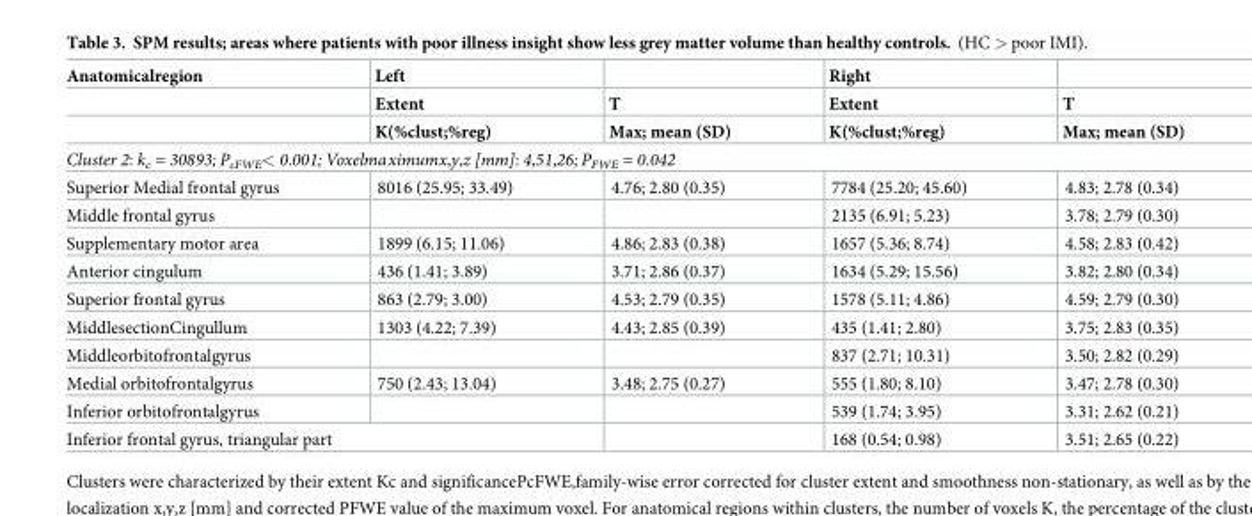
<table><thead><tr><td rowspan="3">Anatomicalregion</td><td rowspan="3">Left Extent K(%clust;%reg)</td><td rowspan="3">T Max; mean (SD)</td><td rowspan="3">Right Extent K(%clust;%reg)</td><td rowspan="3">T Max; mean (SD)</td></tr><tr></tr><tr></tr></thead><tbody><tr><td colspan="5">Cluster 2: k<sub>c</sub> = 30893; P<sub>cFWE</sub>&lt; 0.001; Voxelmaximumx,y,z [mm]: 4,51,26; P<sub>FWE</sub> = 0.042</td></tr><tr><td>Superior Medial frontal gyrus</td><td>8016 (25.95; 33.49)</td><td>4.76; 2.80 (0.35)</td><td>7784 (25.20; 45.60)</td><td>4.83; 2.78 (0.34)</td></tr><tr><td>Middle frontal gyrus</td><td></td><td></td><td>2135 (6.91; 5.23)</td><td>3.78; 2.79 (0.30)</td></tr><tr><td>Supplementary motor area</td><td>1899 (6.15; 11.06)</td><td>4.86; 2.83 (0.38)</td><td>1657 (5.36; 8.74)</td><td>4.58; 2.83 (0.42)</td></tr><tr><td>Anterior cingulum</td><td>436 (1.41; 3.89)</td><td>3.71; 2.86 (0.37)</td><td>1634 (5.29; 15.56)</td><td>3.82; 2.80 (0.34)</td></tr><tr><td>Superior frontal gyrus</td><td>863 (2.79; 3.00)</td><td>4.53; 2.79 (0.35)</td><td>1578 (5.11; 4.86)</td><td>4.59; 2.79 (0.30)</td></tr><tr><td>MiddlesectionCingullum</td><td>1303 (4.22; 7.39)</td><td>4.43; 2.85 (0.39)</td><td>435 (1.41; 2.80)</td><td>3.75; 2.83 (0.35)</td></tr><tr><td>Middleorbitofrontalgyrus</td><td></td><td></td><td>837 (2.71; 10.31)</td><td>3.50; 2.82 (0.29)</td></tr><tr><td>Medial orbitofrontalgyrus</td><td>750 (2.43; 13.04)</td><td>3.48; 2.75 (0.27)</td><td>555 (1.80; 8.10)</td><td>3.47; 2.78 (0.30)</td></tr><tr><td>Inferior orbitofrontalgyrus</td><td></td><td></td><td>539 (1.74; 3.95)</td><td>3.31; 2.62 (0.21)</td></tr><tr><td colspan="2">Inferior frontal gyrus, triangular part</td><td></td><td>168 (0.54; 0.98)</td><td>3.51; 2.65 (0.22)</td></tr></tbody></table>